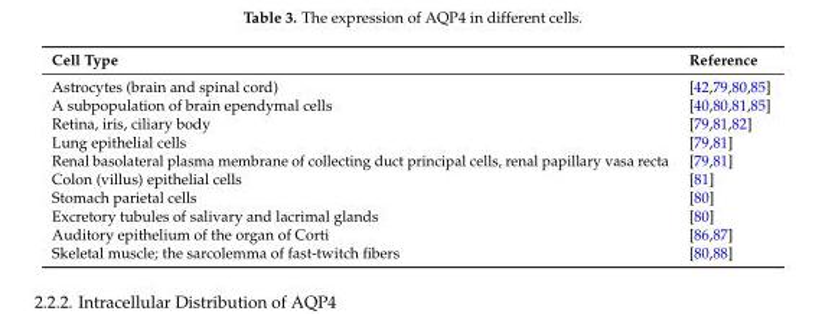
<table><thead><tr><td>Cell Type</td><td>Reference</td></tr></thead><tbody><tr><td>Astrocytes (brain and spinal cord)</td><td>[42,79,80,85]</td></tr><tr><td>A subpopulation of brain ependymal cells</td><td>[40,80,81,85]</td></tr><tr><td>Retina, iris, ciliary body</td><td>[79,81,82]</td></tr><tr><td>Lung epithelial cells</td><td>[79,81]</td></tr><tr><td>Renal basolateral plasma membrane of collecting duct principal cells, renal papillary vasa recta</td><td>[79,81]</td></tr><tr><td>Colon (villus) epithelial cells</td><td>[81]</td></tr><tr><td>Stomach parietal cells</td><td>[80]</td></tr><tr><td>Excretory tubules of salivary and lacrimal glands</td><td>[80]</td></tr><tr><td>Auditory epithelium of the organ of Corti</td><td>[86,87]</td></tr><tr><td>Skeletal muscle; the sarcolemma of fast-twitch fibers</td><td>[80,88]</td></tr></tbody></table>